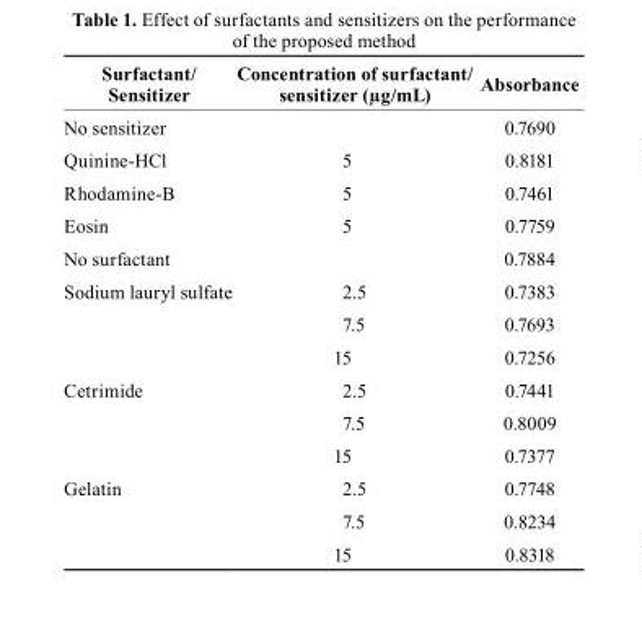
<table><thead><tr><td>surfactant/ sensitizer</td><td>concentration of surfactant/ sensitizer (µg/mL)</td><td>Absorbance</td></tr></thead><tbody><tr><td>No sensitizer</td><td></td><td>0.7690</td></tr><tr><td>Quinine-HCl</td><td>5</td><td>0.8181</td></tr><tr><td>Rhodamine-B</td><td>5</td><td>0.7461</td></tr><tr><td>Eosin</td><td>5</td><td>0.7759</td></tr><tr><td>No surfactant</td><td></td><td>0.7884</td></tr><tr><td rowspan="3">Sodium lauryl sulfate</td><td>2.5</td><td>0.7383</td></tr><tr><td>7.5</td><td>0.7693</td></tr><tr><td>15</td><td>0.7256</td></tr><tr><td rowspan="3">Cetrimide</td><td>2.5</td><td>0.7441</td></tr><tr><td>7.5</td><td>0.8009</td></tr><tr><td>15</td><td>0.7377</td></tr><tr><td rowspan="3">Gelatin</td><td>2.5</td><td>0.7748</td></tr><tr><td>7.5</td><td>0.8234</td></tr><tr><td>15</td><td>0.8318</td></tr></tbody></table>